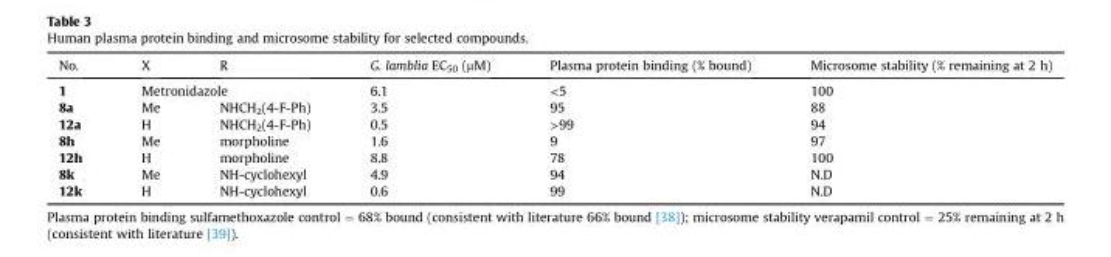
<table><thead><tr><td>No.</td><td>X</td><td>R</td><td>G. lamblia EC<sub>50</sub> (μM)</td><td>Plasma protein binding (% bound)</td><td>Microsome stability (% remaining at 2 h)</td></tr></thead><tbody><tr><td>1</td><td colspan="2">Metronidazole</td><td>6.1</td><td>&lt;5</td><td>100</td></tr><tr><td>8a</td><td>Me</td><td>NHCH<sub>2</sub>(4-F-Ph)</td><td>3.5</td><td>95</td><td>88</td></tr><tr><td>12a</td><td>H</td><td>NHCH<sub>2</sub>(4-F-Ph)</td><td>0.5</td><td>&gt;99</td><td>94</td></tr><tr><td>8h</td><td>Me</td><td>morpholine</td><td>1.6</td><td>9</td><td>97</td></tr><tr><td>12h</td><td>H</td><td>morpholine</td><td>8.8</td><td>78</td><td>100</td></tr><tr><td>8k</td><td>Me</td><td>NH-cyclohexyl</td><td>4.9</td><td>94</td><td>N.D</td></tr><tr><td>12k</td><td>H</td><td>NH-cyclohexyl</td><td>0.6</td><td>99</td><td>N.D</td></tr></tbody></table>